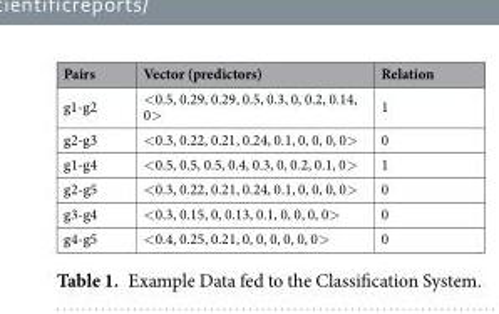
<table><thead><tr><td>Pairs</td><td>Vector (predictors)</td><td>Relation</td></tr></thead><tbody><tr><td>g1-g2</td><td>&lt;0.5, 0.29, 0.29, 0.5, 0.3, 0, 0.2, 0.14, 0&gt;</td><td>1</td></tr><tr><td>g2-g3</td><td>&lt;0.3, 0.22, 0.21, 0.24, 0.1, 0, 0, 0, 0&gt;</td><td>0</td></tr><tr><td>g1-g4</td><td>&lt;0.5, 0.5, 0.5, 0.4, 0.3, 0, 0.2, 0.1, 0&gt;</td><td>1</td></tr><tr><td>g2-g5</td><td>&lt;0.3, 0.22, 0.21, 0.24, 0.1, 0, 0, 0, 0&gt;</td><td>0</td></tr><tr><td>g3-g4</td><td>&lt;0.3, 0.15, 0, 0.13, 0.1, 0, 0, 0, 0&gt;</td><td>0</td></tr><tr><td>g4-g5</td><td>&lt;0.4, 0.25, 0.21, 0, 0, 0, 0, 0, 0&gt;</td><td>0</td></tr></tbody></table>